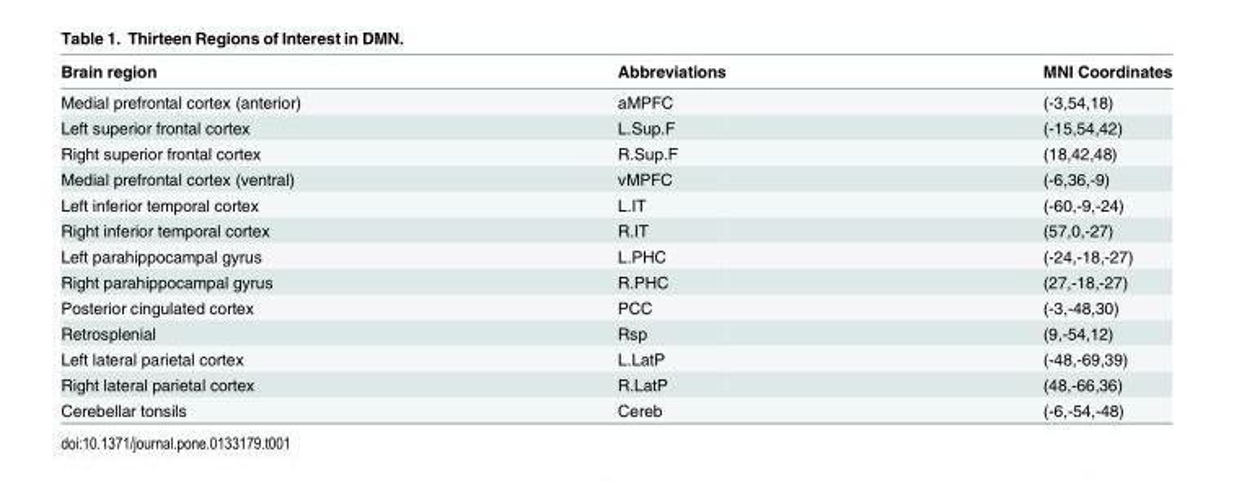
<table><thead><tr><td>Brain region</td><td>Abbreviations</td><td>MNI Coordinates</td></tr></thead><tbody><tr><td>Medial prefrontal cortex (anterior)</td><td>aMPFC</td><td>(-3,54,18)</td></tr><tr><td>Left superior frontal cortex</td><td>L.Sup.F</td><td>(-15,54,42)</td></tr><tr><td>Right superior frontal cortex</td><td>R.Sup.F</td><td>(18,42,48)</td></tr><tr><td>Medial prefrontal cortex (ventral)</td><td>vMPFC</td><td>(-6,36,-9)</td></tr><tr><td>Left inferior temporal cortex</td><td>L.IT</td><td>(-60,-9,-24)</td></tr><tr><td>Right inferior temporal cortex</td><td>R.IT</td><td>(57,0,-27)</td></tr><tr><td>Left parahippocampal gyrus</td><td>L.PHC</td><td>(-24,-18,-27)</td></tr><tr><td>Right parahippocampal gyrus</td><td>R.PHC</td><td>(27,-18,-27)</td></tr><tr><td>Posterior cingulated cortex</td><td>PCC</td><td>(-3,-48,30)</td></tr><tr><td>Retrosplenial</td><td>Rsp</td><td>(9,-54,12)</td></tr><tr><td>Left lateral parietal cortex</td><td>L.LatP</td><td>(-48,-69,39)</td></tr><tr><td>Right lateral parietal cortex</td><td>R.LatP</td><td>(48,-66,36)</td></tr><tr><td>Cerebellar tonsils</td><td>Cereb</td><td>(-6,-54,-48)</td></tr></tbody></table>